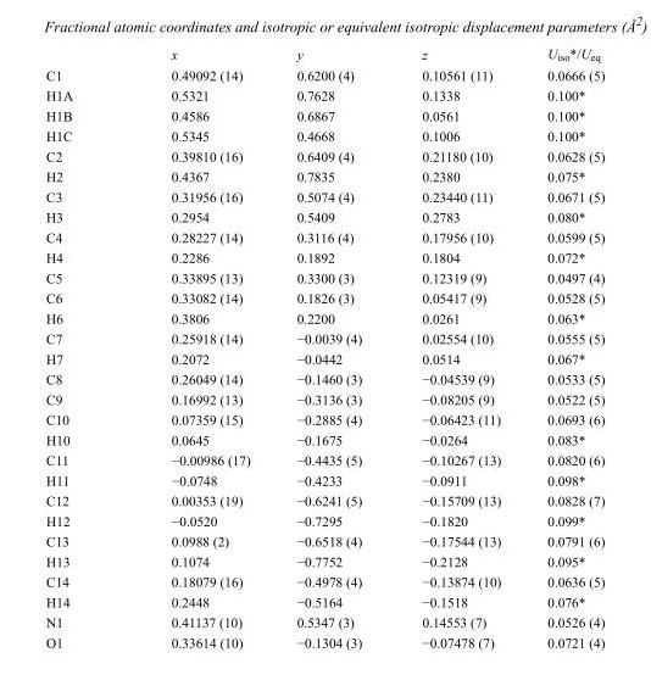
<table><thead><tr><td></td><td>x</td><td>y</td><td>z</td><td>U<sub>iso</sub>*/U<sub>eq</sub></td></tr></thead><tbody><tr><td>C1</td><td>0.49092 (14)</td><td>0.6200 (4)</td><td>0.10561 (11)</td><td>0.0666 (5)</td></tr><tr><td>H1A</td><td>0.5321</td><td>0.7628</td><td>0.1338</td><td>0.100*</td></tr><tr><td>H1B</td><td>0.4586</td><td>0.6867</td><td>0.0561</td><td>0.100*</td></tr><tr><td>H1C</td><td>0.5345</td><td>0.4668</td><td>0.1006</td><td>0.100*</td></tr><tr><td>C2</td><td>0.39810 (16)</td><td>0.6409 (4)</td><td>0.21180 (10)</td><td>0.0628 (5)</td></tr><tr><td>H2</td><td>0.4367</td><td>0.7835</td><td>0.2380</td><td>0.075*</td></tr><tr><td>C3</td><td>0.31956 (16)</td><td>0.5074 (4)</td><td>0.23440 (11)</td><td>0.0671 (5)</td></tr><tr><td>H3</td><td>0.2954</td><td>0.5409</td><td>0.2783</td><td>0.080*</td></tr><tr><td>C4</td><td>0.28227 (14)</td><td>0.3116 (4)</td><td>0.17956 (10)</td><td>0.0599 (5)</td></tr><tr><td>H4</td><td>0.2286</td><td>0.1892</td><td>0.1804</td><td>0.072*</td></tr><tr><td>C5</td><td>0.33895 (13)</td><td>0.3300 (3)</td><td>0.12319 (9)</td><td>0.0497 (4)</td></tr><tr><td>C6</td><td>0.33082 (14)</td><td>0.1826 (3)</td><td>0.05417 (9)</td><td>0.0528 (5)</td></tr><tr><td>H6</td><td>0.3806</td><td>0.2200</td><td>0.0261</td><td>0.063*</td></tr><tr><td>C7</td><td>0.25918 (14)</td><td>−0.0039 (4)</td><td>0.02554 (10)</td><td>0.0555 (5)</td></tr><tr><td>H7</td><td>0.2072</td><td>−0.0442</td><td>0.0514</td><td>0.067*</td></tr><tr><td>C8</td><td>0.26049 (14)</td><td>−0.1460 (3)</td><td>−0.04539 (9)</td><td>0.0533 (5)</td></tr><tr><td>C9</td><td>0.16992 (13)</td><td>−0.3136 (3)</td><td>−0.08205 (9)</td><td>0.0522 (5)</td></tr><tr><td>C10</td><td>0.07359 (15)</td><td>−0.2885 (4)</td><td>−0.06423 (11)</td><td>0.0693 (6)</td></tr><tr><td>H10</td><td>0.0645</td><td>−0.1675</td><td>−0.0264</td><td>0.083*</td></tr><tr><td>C11</td><td>−0.00986 (17)</td><td>−0.4435 (5)</td><td>−0.10267 (13)</td><td>0.0820 (6)</td></tr><tr><td>H11</td><td>−0.0748</td><td>−0.4233</td><td>−0.0911</td><td>0.098*</td></tr><tr><td>C12</td><td>0.00353 (19)</td><td>−0.6241 (5)</td><td>−0.15709 (13)</td><td>0.0828 (7)</td></tr><tr><td>H12</td><td>−0.0520</td><td>−0.7295</td><td>−0.1820</td><td>0.099*</td></tr><tr><td>C13</td><td>0.0988 (2)</td><td>−0.6518 (4)</td><td>−0.17544 (13)</td><td>0.0791 (6)</td></tr><tr><td>H13</td><td>0.1074</td><td>−0.7752</td><td>−0.2128</td><td>0.095*</td></tr><tr><td>C14</td><td>0.18079 (16)</td><td>−0.4978 (4)</td><td>−0.13874 (10)</td><td>0.0636 (5)</td></tr><tr><td>H14</td><td>0.2448</td><td>−0.5164</td><td>−0.1518</td><td>0.076*</td></tr><tr><td>N1</td><td>0.41137 (10)</td><td>0.5347 (3)</td><td>0.14553 (7)</td><td>0.0526 (4)</td></tr><tr><td>O1</td><td>0.33614 (10)</td><td>−0.1304 (3)</td><td>−0.07478 (7)</td><td>0.0721 (4)</td></tr></tbody></table>